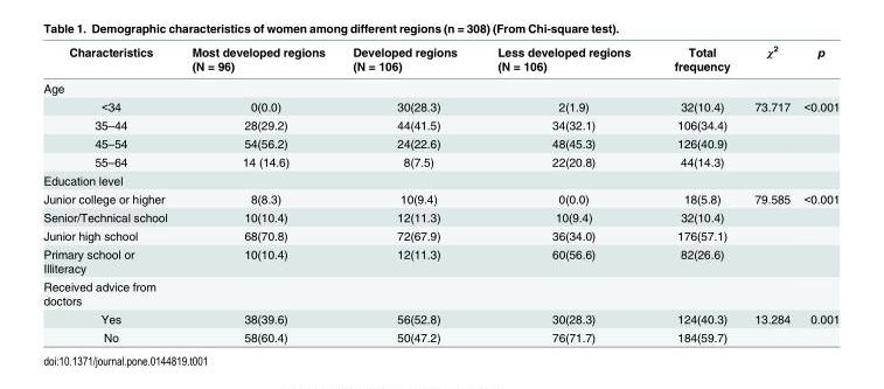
<table><thead><tr><td>Characteristics</td><td>Most developed regions (N = 96)</td><td>Developed regions (N = 106)</td><td>Less developed regions (N = 106)</td><td>Total frequency</td><td>χ<sup>2</sup></td><td>p</td></tr></thead><tbody><tr><td colspan="7">Age</td></tr><tr><td>&lt;34</td><td>0(0.0)</td><td>30(28.3)</td><td>2(1.9)</td><td>32(10.4)</td><td>73.717</td><td>&lt;0.001</td></tr><tr><td>35–44</td><td>28(29.2)</td><td>44(41.5)</td><td>34(32.1)</td><td>106(34.4)</td><td></td><td></td></tr><tr><td>45–54</td><td>54(56.2)</td><td>24(22.6)</td><td>48(45.3)</td><td>126(40.9)</td><td></td><td></td></tr><tr><td>55–64</td><td>14 (14.6)</td><td>8(7.5)</td><td>22(20.8)</td><td>44(14.3)</td><td></td><td></td></tr><tr><td colspan="7">Education level</td></tr><tr><td>Junior college or higher</td><td>8(8.3)</td><td>10(9.4)</td><td>0(0.0)</td><td>18(5.8)</td><td>79.585</td><td>&lt;0.001</td></tr><tr><td>Senior/Technical school</td><td>10(10.4)</td><td>12(11.3)</td><td>10(9.4)</td><td>32(10.4)</td><td></td><td></td></tr><tr><td>Junior high school</td><td>68(70.8)</td><td>72(67.9)</td><td>36(34.0)</td><td>176(57.1)</td><td></td><td></td></tr><tr><td>Primary school or Illiteracy</td><td>10(10.4)</td><td>12(11.3)</td><td>60(56.6)</td><td>82(26.6)</td><td></td><td></td></tr><tr><td colspan="7">Received advice from doctors</td></tr><tr><td>Yes</td><td>38(39.6)</td><td>56(52.8)</td><td>30(28.3)</td><td>124(40.3)</td><td>13.284</td><td>0.001</td></tr><tr><td>No</td><td>58(60.4)</td><td>50(47.2)</td><td>76(71.7)</td><td>184(59.7)</td><td></td><td></td></tr></tbody></table>